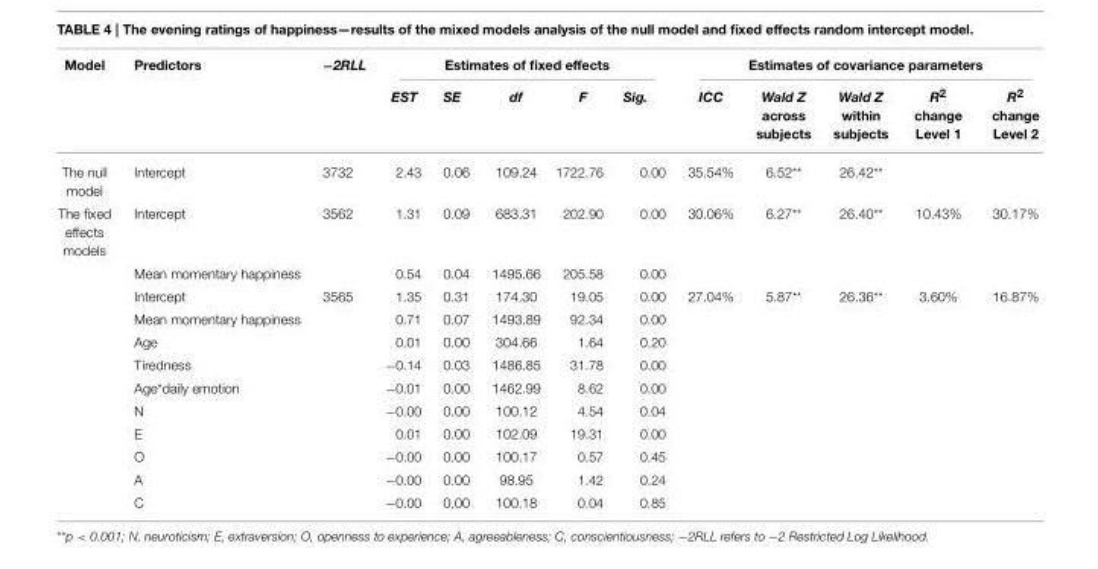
<table><thead><tr><td rowspan="2">Model</td><td rowspan="2">Predictors</td><td rowspan="2">−2RLL</td><td colspan="5">Estimates of fixed effects</td><td colspan="5">Estimates of covariance parameters</td></tr><tr><td>EST</td><td>SE</td><td>df</td><td>F</td><td>Sig.</td><td>ICC</td><td>Wald Z across subjects</td><td>Wald Z within subjects</td><td>R<sup>2</sup> change Level 1</td><td>R<sup>2</sup> change Level 2</td></tr></thead><tbody><tr><td>The null model</td><td>Intercept</td><td>3732</td><td>2.43</td><td>0.06</td><td>109.24</td><td>1722.76</td><td>0.00</td><td>35.54%</td><td>6.52**</td><td>26.42**</td><td></td><td></td></tr><tr><td rowspan="12">The fixed effects models</td><td>Intercept</td><td>3562</td><td>1.31</td><td>0.09</td><td>683.31</td><td>202.90</td><td>0.00</td><td>30.06%</td><td>6.27**</td><td>26.40**</td><td>10.43%</td><td>30.17%</td></tr><tr><td>Mean momentary happiness</td><td></td><td>0.54</td><td>0.04</td><td>1495.66</td><td>205.58</td><td>0.00</td><td></td><td></td><td></td><td></td><td></td></tr><tr><td>Intercept</td><td>3565</td><td>1.35</td><td>0.31</td><td>174.30</td><td>19.05</td><td>0.00</td><td>27.04%</td><td>5.87**</td><td>26.36**</td><td>3.60%</td><td>16.87%</td></tr><tr><td>Mean momentary happiness</td><td></td><td>0.71</td><td>0.07</td><td>1493.89</td><td>92.34</td><td>0.00</td><td></td><td></td><td></td><td></td><td></td></tr><tr><td>Age</td><td></td><td>0.01</td><td>0.00</td><td>304.66</td><td>1.64</td><td>0.20</td><td></td><td></td><td></td><td></td><td></td></tr><tr><td>Tiredness</td><td></td><td>−0.14</td><td>0.03</td><td>1486.85</td><td>31.78</td><td>0.00</td><td></td><td></td><td></td><td></td><td></td></tr><tr><td>Age*daily emotion</td><td></td><td>−0.01</td><td>0.00</td><td>1462.99</td><td>8.62</td><td>0.00</td><td></td><td></td><td></td><td></td><td></td></tr><tr><td>N</td><td></td><td>−0.00</td><td>0.00</td><td>100.12</td><td>4.54</td><td>0.04</td><td></td><td></td><td></td><td></td><td></td></tr><tr><td>E</td><td></td><td>0.01</td><td>0.00</td><td>102.09</td><td>19.31</td><td>0.00</td><td></td><td></td><td></td><td></td><td></td></tr><tr><td>O</td><td></td><td>−0.00</td><td>0.00</td><td>100.17</td><td>0.57</td><td>0.45</td><td></td><td></td><td></td><td></td><td></td></tr><tr><td>A</td><td></td><td>−0.00</td><td>0.00</td><td>98.95</td><td>1.42</td><td>0.24</td><td></td><td></td><td></td><td></td><td></td></tr><tr><td>C</td><td></td><td>−0.00</td><td>0.00</td><td>100.18</td><td>0.04</td><td>0.85</td><td></td><td></td><td></td><td></td><td></td></tr></tbody></table>